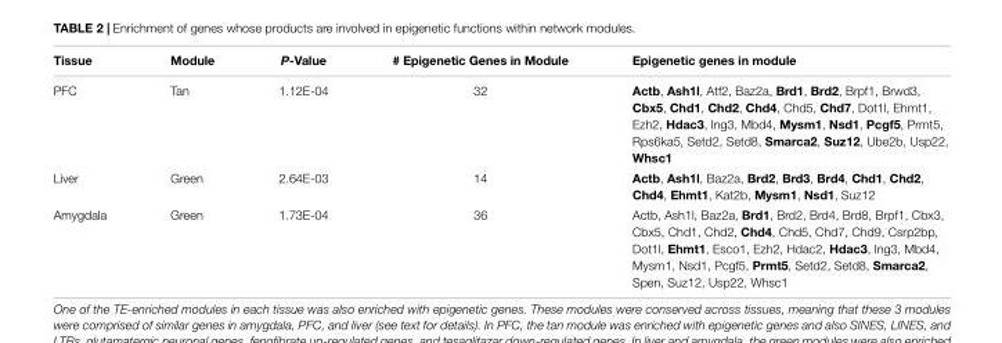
<table><thead><tr><td>Tissue</td><td>Module</td><td>P-Value</td><td># Epigenetic Genes in Module</td><td>Epigenetic genes in module</td></tr></thead><tbody><tr><td>PFC</td><td>Tan</td><td>1.12E-04</td><td>32</td><td>Actb, Ash1l, Atf2, Baz2a, Brd1, Brd2, Brpf1, Brwd3, Cbx5, Chd1, Chd2, Chd4, Chd5, Chd7, Dot1l, Ehmt1, Ezh2, Hdac3, Ing3, Mbd4, Mysm1, Nsd1, Pcgf5, Prmt5, Rps6ka5, Setd2, Setd8, Smarca2, Suz12, Ube2b, Usp22, Whsc1</td></tr><tr><td>Liver</td><td>Green</td><td>2.64E-03</td><td>14</td><td>Actb, Ash1l, Baz2a, Brd2, Brd3, Brd4, Chd1, Chd2, Chd4, Ehmt1, Kat2b, Mysm1, Nsd1, Suz12</td></tr><tr><td>Amygdala</td><td>Green</td><td>1.73E-04</td><td>36</td><td>Actb, Ash1l, Baz2a, Brd1, Brd2, Brd4, Brd8, Brpf1, Cbx3, Cbx5, Chd1, Chd2, Chd4, Chd5, Chd7, Chd9, Csrp2bp, Dot1l, Ehmt1, Esco1, Ezh2, Hdac2, Hdac3, Ing3, Mbd4, Mysm1, Nsd1, Pcgf5, Prmt5, Setd2, Setd8, Smarca2, Spen, Suz12, Usp22, Whsc1</td></tr></tbody></table>